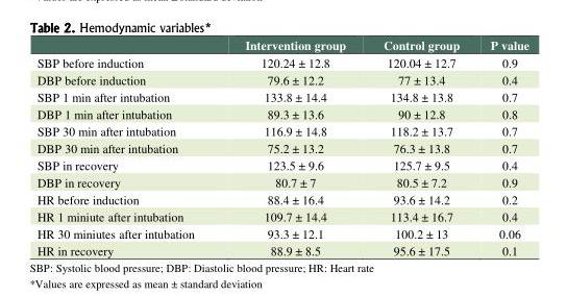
<table><thead><tr><td></td><td>Intervention group</td><td>Control group</td><td>P value</td></tr></thead><tbody><tr><td>SBP before induction</td><td>120.24 ± 12.8</td><td>120.04 ± 12.7</td><td>0.9</td></tr><tr><td>DBP before induction</td><td>79.6 ± 12.2</td><td>77 ± 13.4</td><td>0.4</td></tr><tr><td>SBP 1 min after intubation</td><td>133.8 ± 14.4</td><td>134.8 ± 13.8</td><td>0.7</td></tr><tr><td>DBP 1 min after intubation</td><td>89.3 ± 13.6</td><td>90 ± 12.8</td><td>0.8</td></tr><tr><td>SBP 30 min after intubation</td><td>116.9 ± 14.8</td><td>118.2 ± 13.7</td><td>0.7</td></tr><tr><td>DBP 30 min after intubation</td><td>75.2 ± 13.2</td><td>76.3 ± 13.8</td><td>0.7</td></tr><tr><td>SBP in recovery</td><td>123.5 ± 9.6</td><td>125.7 ± 9.5</td><td>0.4</td></tr><tr><td>DBP in recovery</td><td>80.7 ± 7</td><td>80.5 ± 7.2</td><td>0.9</td></tr><tr><td>HR before induction</td><td>88.4 ± 16.4</td><td>93.6 ± 14.2</td><td>0.2</td></tr><tr><td>HR 1 miniute after intubation</td><td>109.7 ± 14.4</td><td>113.4 ± 16.7</td><td>0.4</td></tr><tr><td>HR 30 miniutes after intubation</td><td>93.3 ± 12.1</td><td>100.2 ± 13</td><td>0.06</td></tr><tr><td>HR in recovery</td><td>88.9 ± 8.5</td><td>95.6 ± 17.5</td><td>0.1</td></tr></tbody></table>